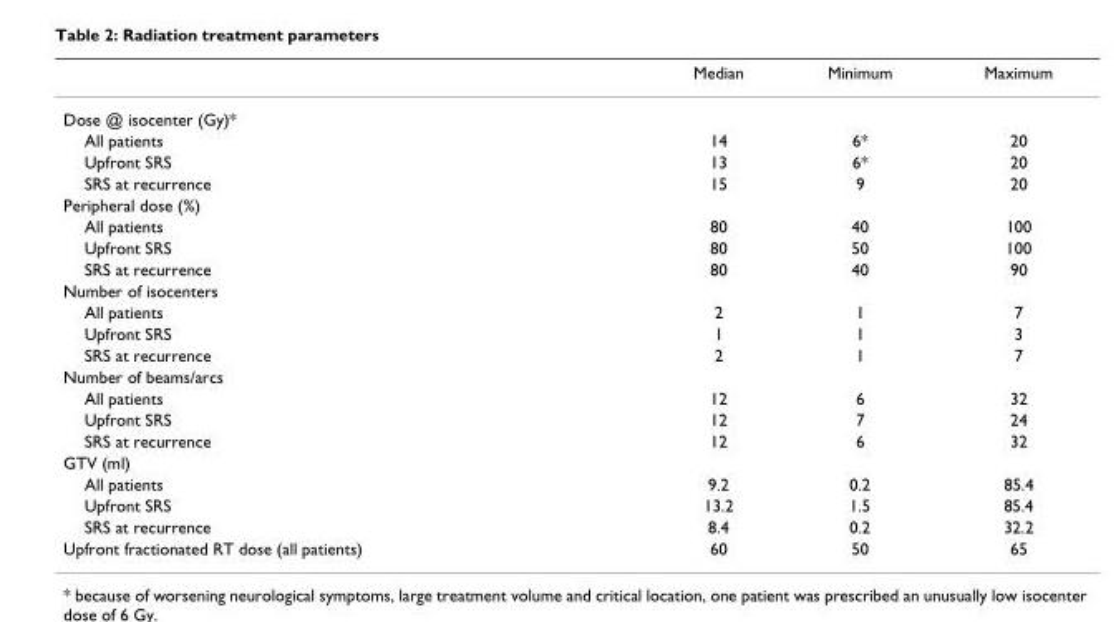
<table><thead><tr><td></td><td>Median</td><td>Minimum</td><td>Maximum</td></tr></thead><tbody><tr><td colspan="4">Dose @ isocenter (Gy)*</td></tr><tr><td>All patients</td><td>14</td><td>6*</td><td>20</td></tr><tr><td>Upfront SRS</td><td>13</td><td>6*</td><td>20</td></tr><tr><td>SRS at recurrence</td><td>15</td><td>9</td><td>20</td></tr><tr><td colspan="4">Peripheral dose (%)</td></tr><tr><td>All patients</td><td>80</td><td>40</td><td>100</td></tr><tr><td>Upfront SRS</td><td>80</td><td>50</td><td>100</td></tr><tr><td>SRS at recurrence</td><td>80</td><td>40</td><td>90</td></tr><tr><td colspan="4">Number of isocenters</td></tr><tr><td>All patients</td><td>2</td><td>1</td><td>7</td></tr><tr><td>Upfront SRS</td><td>1</td><td>1</td><td>3</td></tr><tr><td>SRS at recurrence</td><td>2</td><td>1</td><td>7</td></tr><tr><td colspan="4">Number of beams/arcs</td></tr><tr><td>All patients</td><td>12</td><td>6</td><td>32</td></tr><tr><td>Upfront SRS</td><td>12</td><td>7</td><td>24</td></tr><tr><td>SRS at recurrence</td><td>12</td><td>6</td><td>32</td></tr><tr><td colspan="4">GTV (ml)</td></tr><tr><td>All patients</td><td>9.2</td><td>0.2</td><td>85.4</td></tr><tr><td>Upfront SRS</td><td>13.2</td><td>1.5</td><td>85.4</td></tr><tr><td>SRS at recurrence</td><td>8.4</td><td>0.2</td><td>32.2</td></tr><tr><td>Upfront fractionated RT dose (all patients)</td><td>60</td><td>50</td><td>65</td></tr></tbody></table>